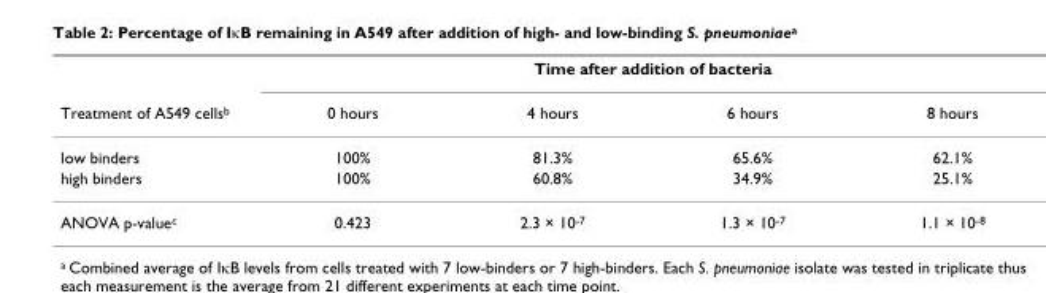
<table><thead><tr><td rowspan="2">Treatment of A549 cells<sup>b</sup></td><td colspan="4">Time after addition of bacteria</td></tr><tr><td>0 hours</td><td>4 hours</td><td>6 hours</td><td>8 hours</td></tr></thead><tbody><tr><td>low binders</td><td>100%</td><td>81.3%</td><td>65.6%</td><td>62.1%</td></tr><tr><td>high binders</td><td>100%</td><td>60.8%</td><td>34.9%</td><td>25.1%</td></tr><tr><td>ANOVA p-value<sup>c</sup></td><td>0.423</td><td>2.3 × 10<sup>-7</sup></td><td>1.3 × 10<sup>-7</sup></td><td>1.1 × 10<sup>-8</sup></td></tr></tbody></table>